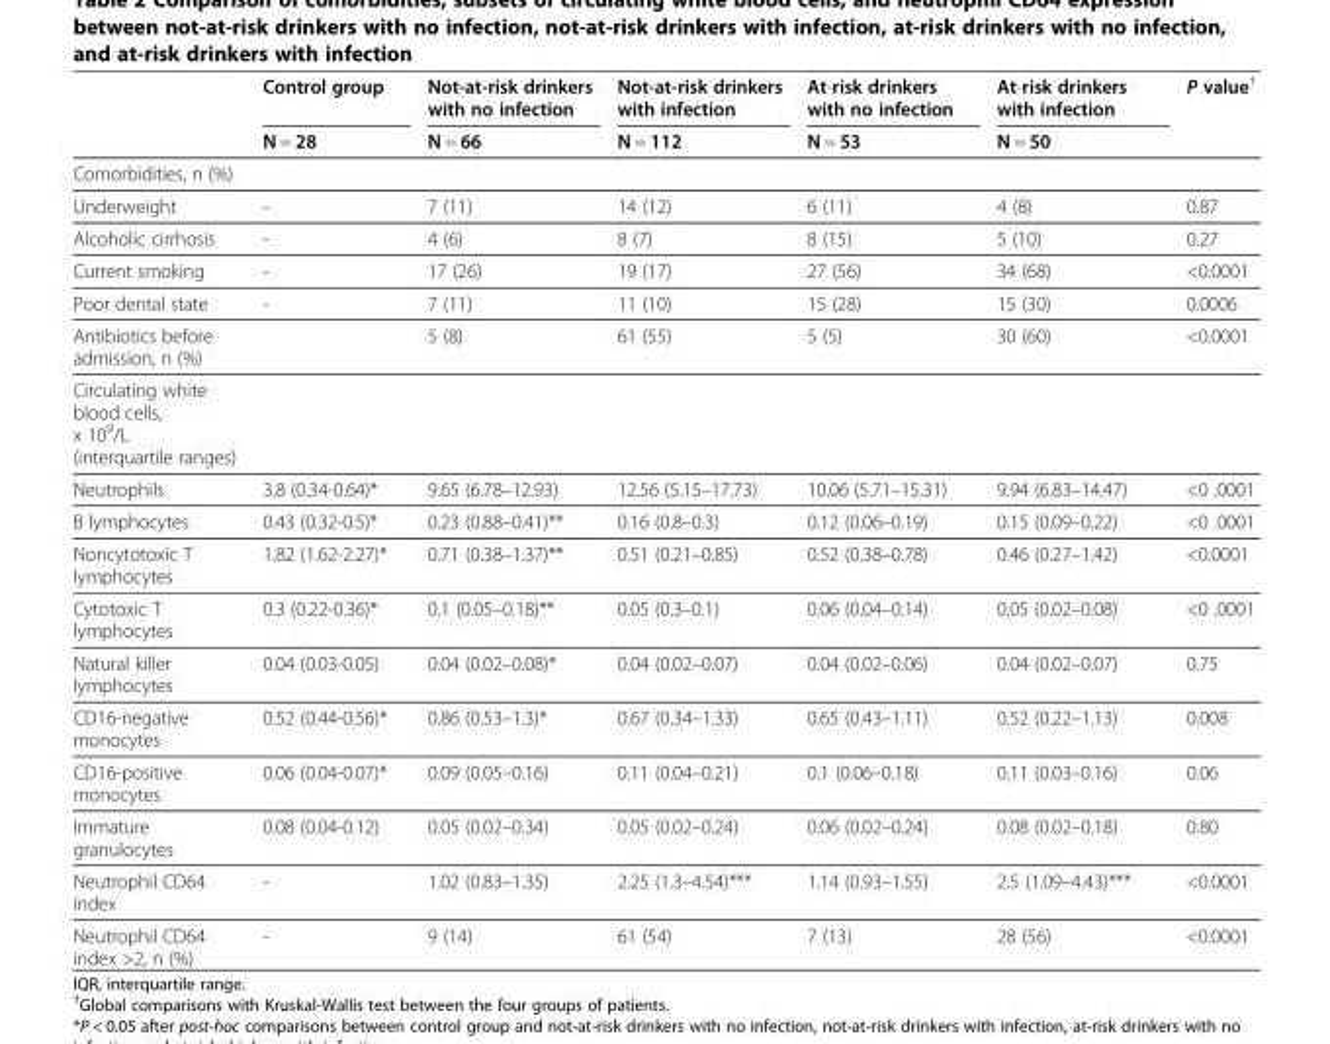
<table><thead><tr><td rowspan="2"></td><td rowspan="2">Control group N = 28</td><td rowspan="2">Not-at-risk drinkers with no infection N = 66</td><td rowspan="2">Not-at-risk drinkers with infection N = 112</td><td rowspan="2">At-risk drinkers with no infection N = 53</td><td rowspan="2">At-risk drinkers with infection N = 50</td><td rowspan="2">P value<sup>†</sup></td></tr><tr></tr></thead><tbody><tr><td colspan="7">Comorbidities, n (%)</td></tr><tr><td>Underweight</td><td>-</td><td>7 (11)</td><td>14 (12)</td><td>6 (11)</td><td>4 (8)</td><td>0.87</td></tr><tr><td>Alcoholic cirrhosis</td><td>-</td><td>4 (6)</td><td>8 (7)</td><td>8 (15)</td><td>5 (10)</td><td>0.27</td></tr><tr><td>Current smoking</td><td>-</td><td>17 (26)</td><td>19 (17)</td><td>27 (56)</td><td>34 (68)</td><td>&lt;0.0001</td></tr><tr><td>Poor dental state</td><td>-</td><td>7 (11)</td><td>11 (10)</td><td>15 (28)</td><td>15 (30)</td><td>0.0006</td></tr><tr><td>Antibiotics before admission, n (%)</td><td></td><td>5 (8)</td><td>61 (55)</td><td>5 (5)</td><td>30 (60)</td><td>&lt;0.0001</td></tr><tr><td colspan="7">Circulating white blood cells, x 10<sup>9</sup>/L (interquartile ranges)</td></tr><tr><td>Neutrophils</td><td>3.8 (0.34-0.64)*</td><td>9.65 (6.78–12.93)</td><td>12.56 (5.15–17.73)</td><td>10.06 (5.71–15.31)</td><td>9.94 (6.83–14.47)</td><td>&lt;0 .0001</td></tr><tr><td>B lymphocytes</td><td>0.43 (0.32-0.5)*</td><td>0.23 (0.88–0.41)**</td><td>0.16 (0.8–0.3)</td><td>0.12 (0.06–0.19)</td><td>0.15 (0.09–0.22)</td><td>&lt;0 .0001</td></tr><tr><td>Noncytotoxic T lymphocytes</td><td>1.82 (1.62-2.27)*</td><td>0.71 (0.38–1.37)**</td><td>0.51 (0.21–0.85)</td><td>0.52 (0.38–0.78)</td><td>0.46 (0.27–1.42)</td><td>&lt;0.0001</td></tr><tr><td>Cytotoxic T lymphocytes</td><td>0.3 (0.22-0.36)*</td><td>0.1 (0.05–0.18)**</td><td>0.05 (0.3–0.1)</td><td>0.06 (0.04–0.14)</td><td>0.05 (0.02–0.08)</td><td>&lt;0 .0001</td></tr><tr><td>Natural killer lymphocytes</td><td>0.04 (0.03-0.05)</td><td>0.04 (0.02–0.08)*</td><td>0.04 (0.02–0.07)</td><td>0.04 (0.02–0.06)</td><td>0.04 (0.02–0.07)</td><td>0.75</td></tr><tr><td>CD16-negative monocytes</td><td>0.52 (0.44-0.56)*</td><td>0.86 (0.53–1.3)*</td><td>0.67 (0.34–1.33)</td><td>0.65 (0.43–1.11)</td><td>0.52 (0.22–1.13)</td><td>0.008</td></tr><tr><td>CD16-positive monocytes</td><td>0.06 (0.04-0.07)*</td><td>0.09 (0.05–0.16)</td><td>0.11 (0.04–0.21)</td><td>0.1 (0.06–0.18)</td><td>0.11 (0.03–0.16)</td><td>0.06</td></tr><tr><td>Immature granulocytes</td><td>0.08 (0.04-0.12)</td><td>0.05 (0.02–0.34)</td><td>0.05 (0.02–0.24)</td><td>0.06 (0.02–0.24)</td><td>0.08 (0.02–0.18)</td><td>0.80</td></tr><tr><td>Neutrophil CD64 index</td><td>-</td><td>1.02 (0.83–1.35)</td><td>2.25 (1.3–4.54)***</td><td>1.14 (0.93–1.55)</td><td>2.5 (1.09–4.43)***</td><td>&lt;0.0001</td></tr><tr><td>Neutrophil CD64 index &gt;2, n (%)</td><td>-</td><td>9 (14)</td><td>61 (54)</td><td>7 (13)</td><td>28 (56)</td><td>&lt;0.0001</td></tr></tbody></table>